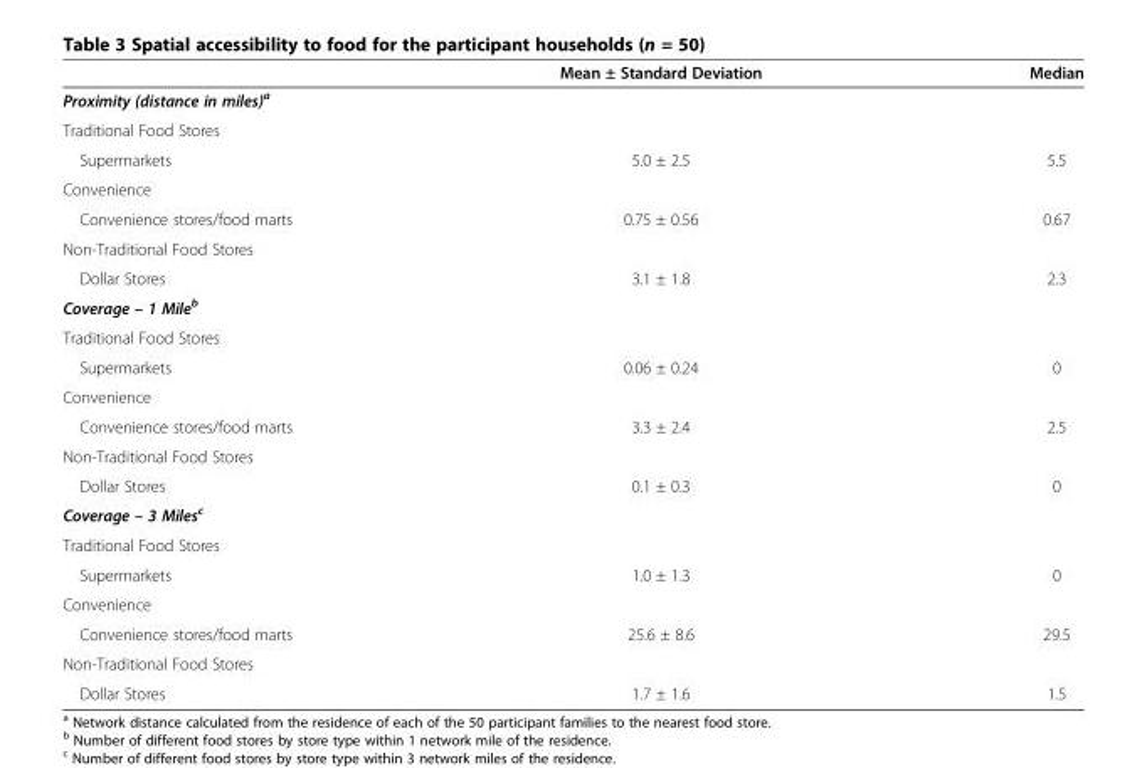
<table><thead><tr><td></td><td>Mean ± Standard Deviation</td><td>Median</td></tr></thead><tbody><tr><td colspan="3">Proximity (distance in miles)<sup>a</sup></td></tr><tr><td colspan="3">Traditional Food Stores</td></tr><tr><td>Supermarkets</td><td>5.0 ± 2.5</td><td>5.5</td></tr><tr><td colspan="3">Convenience</td></tr><tr><td>Convenience stores/food marts</td><td>0.75 ± 0.56</td><td>0.67</td></tr><tr><td colspan="3">Non-Traditional Food Stores</td></tr><tr><td>Dollar Stores</td><td>3.1 ± 1.8</td><td>2.3</td></tr><tr><td colspan="3">Coverage – 1 Mile<sup>b</sup></td></tr><tr><td colspan="3">Traditional Food Stores</td></tr><tr><td>Supermarkets</td><td>0.06 ± 0.24</td><td>0</td></tr><tr><td colspan="3">Convenience</td></tr><tr><td>Convenience stores/food marts</td><td>3.3 ± 2.4</td><td>2.5</td></tr><tr><td colspan="3">Non-Traditional Food Stores</td></tr><tr><td>Dollar Stores</td><td>0.1 ± 0.3</td><td>0</td></tr><tr><td colspan="3">Coverage – 3 Miles<sup>c</sup></td></tr><tr><td colspan="3">Traditional Food Stores</td></tr><tr><td>Supermarkets</td><td>1.0 ± 1.3</td><td>0</td></tr><tr><td colspan="3">Convenience</td></tr><tr><td>Convenience stores/food marts</td><td>25.6 ± 8.6</td><td>29.5</td></tr><tr><td colspan="3">Non-Traditional Food Stores</td></tr><tr><td>Dollar Stores</td><td>1.7 ± 1.6</td><td>1.5</td></tr></tbody></table>